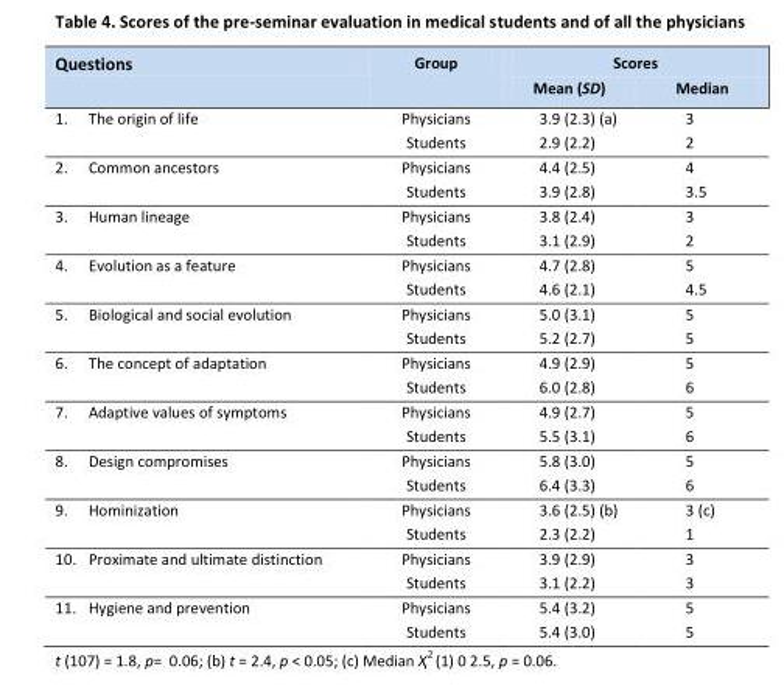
<table><thead><tr><td rowspan="2">Questions</td><td rowspan="2">Group</td><td colspan="2">Scores</td></tr><tr><td>Mean (SD)</td><td>Median</td></tr></thead><tbody><tr><td>1. The origin of life</td><td>Physicians Students</td><td>3.9 (2.3) (a) 2.9 (2.2)</td><td>3 2</td></tr><tr><td>2. Common ancestors</td><td>Physicians Students</td><td>4.4 (2.5) 3.9 (2.8)</td><td>4 3.5</td></tr><tr><td>3. Human lineage</td><td>Physicians Students</td><td>3.8 (2.4) 3.1 (2.9)</td><td>3 2</td></tr><tr><td>4. Evolution as a feature</td><td>Physicians Students</td><td>4.7 (2.8) 4.6 (2.1)</td><td>5 4.5</td></tr><tr><td>5. Biological and social evolution</td><td>Physicians Students</td><td>5.0 (3.1) 5.2 (2.7)</td><td>5 5</td></tr><tr><td>6. The concept of adaptation</td><td>Physicians Students</td><td>4.9 (2.9) 6.0 (2.8)</td><td>5 6</td></tr><tr><td>7. Adaptive values of symptoms</td><td>Physicians Students</td><td>4.9 (2.7) 5.5 (3.1)</td><td>5 6</td></tr><tr><td>8. Design compromises</td><td>Physicians Students</td><td>5.8 (3.0) 6.4 (3.3)</td><td>5 6</td></tr><tr><td>9. Hominization</td><td>Physicians Students</td><td>3.6 (2.5) (b) 2.3 (2.2)</td><td>3 (c) 1</td></tr><tr><td>10. Proximate and ultimate distinction</td><td>Physicians Students</td><td>3.9 (2.9) 3.1 (2.2)</td><td>3 3</td></tr><tr><td>11. Hygiene and prevention</td><td>Physicians Students</td><td>5.4 (3.2) 5.4 (3.0)</td><td>5 5</td></tr></tbody></table>